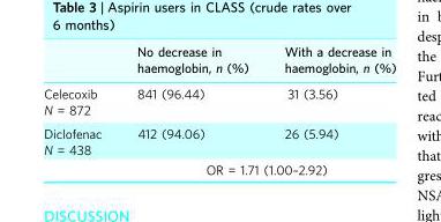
<table><thead><tr><td></td><td>No decrease in haemoglobin, n (%)</td><td>With a decrease in haemoglobin, n (%)</td></tr></thead><tbody><tr><td>Celecoxib N = 872</td><td>841 (96.44)</td><td>31 (3.56)</td></tr><tr><td rowspan="2">Diclofenac N = 438</td><td>412 (94.06)</td><td>26 (5.94)</td></tr><tr><td colspan="2">OR = 1.71 (1.00–2.92)</td></tr></tbody></table>